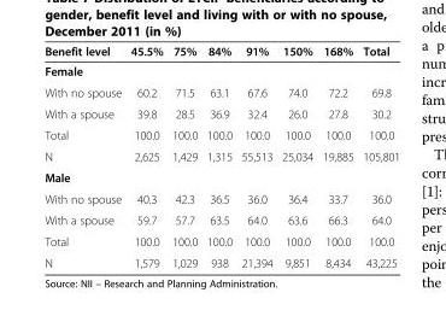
<table><thead><tr><td>Benefit level</td><td>45.5%</td><td>75%</td><td>84%</td><td>91%</td><td>150%</td><td>168%</td><td>Total</td></tr></thead><tbody><tr><td colspan="8">Female</td></tr><tr><td>With no spouse</td><td>60.2</td><td>71.5</td><td>63.1</td><td>67.6</td><td>74.0</td><td>72.2</td><td>69.8</td></tr><tr><td>With a spouse</td><td>39.8</td><td>28.5</td><td>36.9</td><td>32.4</td><td>26.0</td><td>27.8</td><td>30.2</td></tr><tr><td>Total</td><td>100.0</td><td>100.0</td><td>100.0</td><td>100.0</td><td>100.0</td><td>100.0</td><td>100.0</td></tr><tr><td>N</td><td>2,625</td><td>1,429</td><td>1,315</td><td>55,513</td><td>25,034</td><td>19,885</td><td>105,801</td></tr><tr><td colspan="8">Male</td></tr><tr><td>With no spouse</td><td>40.3</td><td>42.3</td><td>36.5</td><td>36.0</td><td>36.4</td><td>33.7</td><td>36.0</td></tr><tr><td>With a spouse</td><td>59.7</td><td>57.7</td><td>63.5</td><td>64.0</td><td>63.6</td><td>66.3</td><td>64.0</td></tr><tr><td>Total</td><td>100.0</td><td>100.0</td><td>100.0</td><td>100.0</td><td>100.0</td><td>100.0</td><td>100.0</td></tr><tr><td>N</td><td>1,579</td><td>1,029</td><td>938</td><td>21,394</td><td>9,851</td><td>8,434</td><td>43,225</td></tr></tbody></table>